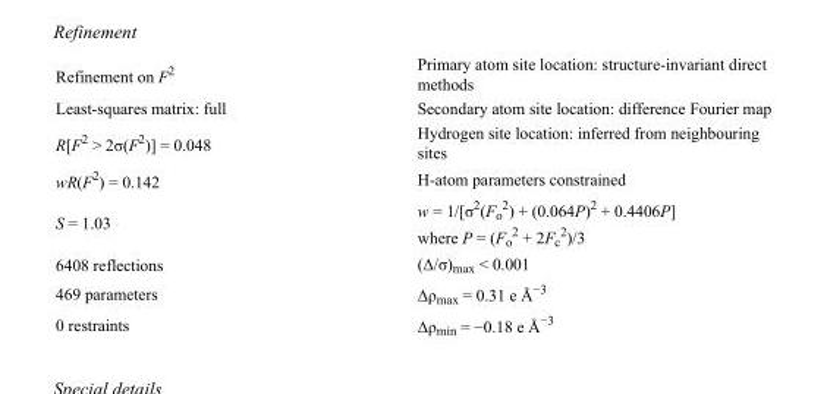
<table><tbody><tr><td>Refinement on F<sup>2</sup></td><td>Primary atom site location: structure-invariant direct methods</td></tr><tr><td>Least-squares matrix: full</td><td>Secondary atom site location: difference Fourier map</td></tr><tr><td>R[F<sup>2</sup> &gt; 2σ(F<sup>2</sup>)] = 0.048</td><td>Hydrogen site location: inferred from neighbouring sites</td></tr><tr><td>wR(F<sup>2</sup>) = 0.142</td><td>H-atom parameters constrained</td></tr><tr><td>S = 1.03</td><td>w = 1/[σ<sup>2</sup>(F<sub>o</sub> <sup>2</sup>) + (0.064P)<sup>2</sup> + 0.4406P] where P = (F<sub>o</sub> <sup>2</sup> + 2F<sub>c</sub> <sup>2</sup>)/3</td></tr><tr><td>6408 reflections</td><td>(Δ/σ)<sub>max</sub> &lt; 0.001</td></tr><tr><td>469 parameters</td><td>Δρ<sub>max</sub> = 0.31 e Å<sup>−3</sup></td></tr><tr><td>0 restraints</td><td>Δρ<sub>min</sub> = −0.18 e Å<sup>−3</sup></td></tr></tbody></table>